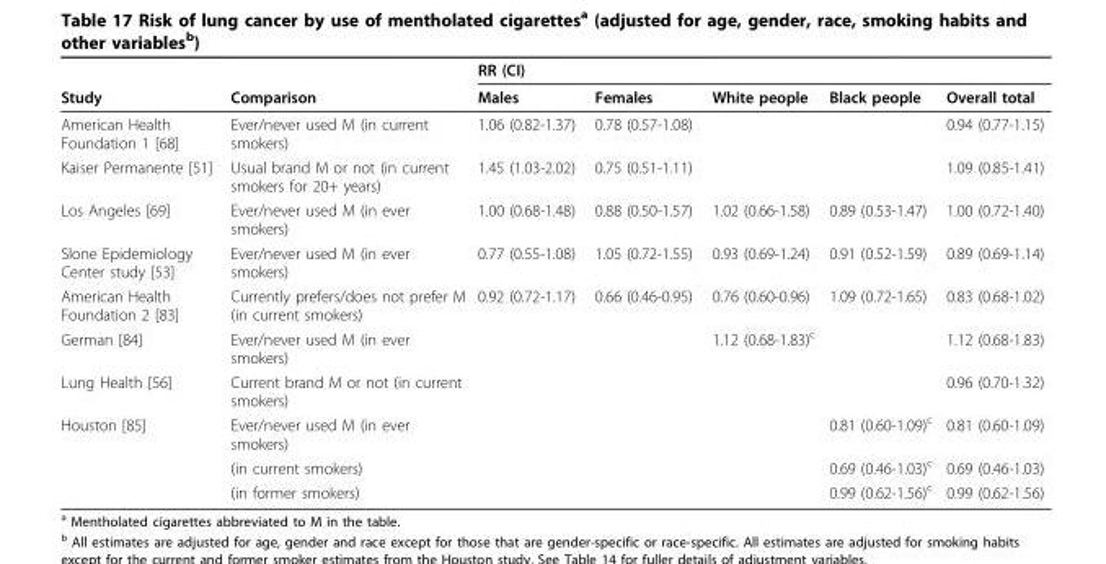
<table><thead><tr><td rowspan="2">Study</td><td rowspan="2">Comparison</td><td colspan="5">RR (CI)</td></tr><tr><td>Males</td><td>Females</td><td>White people</td><td>Black people</td><td>Overall total</td></tr></thead><tbody><tr><td>American Health Foundation 1 [68]</td><td>Ever/never used M (in current smokers)</td><td>1.06 (0.82-1.37)</td><td>0.78 (0.57-1.08)</td><td></td><td></td><td>0.94 (0.77-1.15)</td></tr><tr><td>Kaiser Permanente [51]</td><td>Usual brand M or not (in current smokers for 20+ years)</td><td>1.45 (1.03-2.02)</td><td>0.75 (0.51-1.11)</td><td></td><td></td><td>1.09 (0.85-1.41)</td></tr><tr><td>Los Angeles [69]</td><td>Ever/never used M (in ever smokers)</td><td>1.00 (0.68-1.48)</td><td>0.88 (0.50-1.57)</td><td>1.02 (0.66-1.58)</td><td>0.89 (0.53-1.47)</td><td>1.00 (0.72-1.40)</td></tr><tr><td>Slone Epidemiology Center study [53]</td><td>Ever/never used M (in ever smokers)</td><td>0.77 (0.55-1.08)</td><td>1.05 (0.72-1.55)</td><td>0.93 (0.69-1.24)</td><td>0.91 (0.52-1.59)</td><td>0.89 (0.69-1.14)</td></tr><tr><td>American Health Foundation 2 [83]</td><td>Currently prefers/does not prefer M (in current smokers)</td><td>0.92 (0.72-1.17)</td><td>0.66 (0.46-0.95)</td><td>0.76 (0.60-0.96)</td><td>1.09 (0.72-1.65)</td><td>0.83 (0.68-1.02)</td></tr><tr><td>German [84]</td><td>Ever/never used M (in ever smokers)</td><td></td><td></td><td>1.12 (0.68-1.83)<sup>c</sup></td><td></td><td>1.12 (0.68-1.83)</td></tr><tr><td>Lung Health [56]</td><td>Current brand M or not (in current smokers)</td><td></td><td></td><td></td><td></td><td>0.96 (0.70-1.32)</td></tr><tr><td rowspan="3">Houston [85]</td><td>Ever/never used M (in ever smokers)</td><td></td><td></td><td></td><td>0.81 (0.60-1.09)<sup>c</sup></td><td>0.81 (0.60-1.09)</td></tr><tr><td>(in current smokers)</td><td></td><td></td><td></td><td>0.69 (0.46-1.03)<sup>c</sup></td><td>0.69 (0.46-1.03)</td></tr><tr><td>(in former smokers)</td><td></td><td></td><td></td><td>0.99 (0.62-1.56)<sup>c</sup></td><td>0.99 (0.62-1.56)</td></tr></tbody></table>